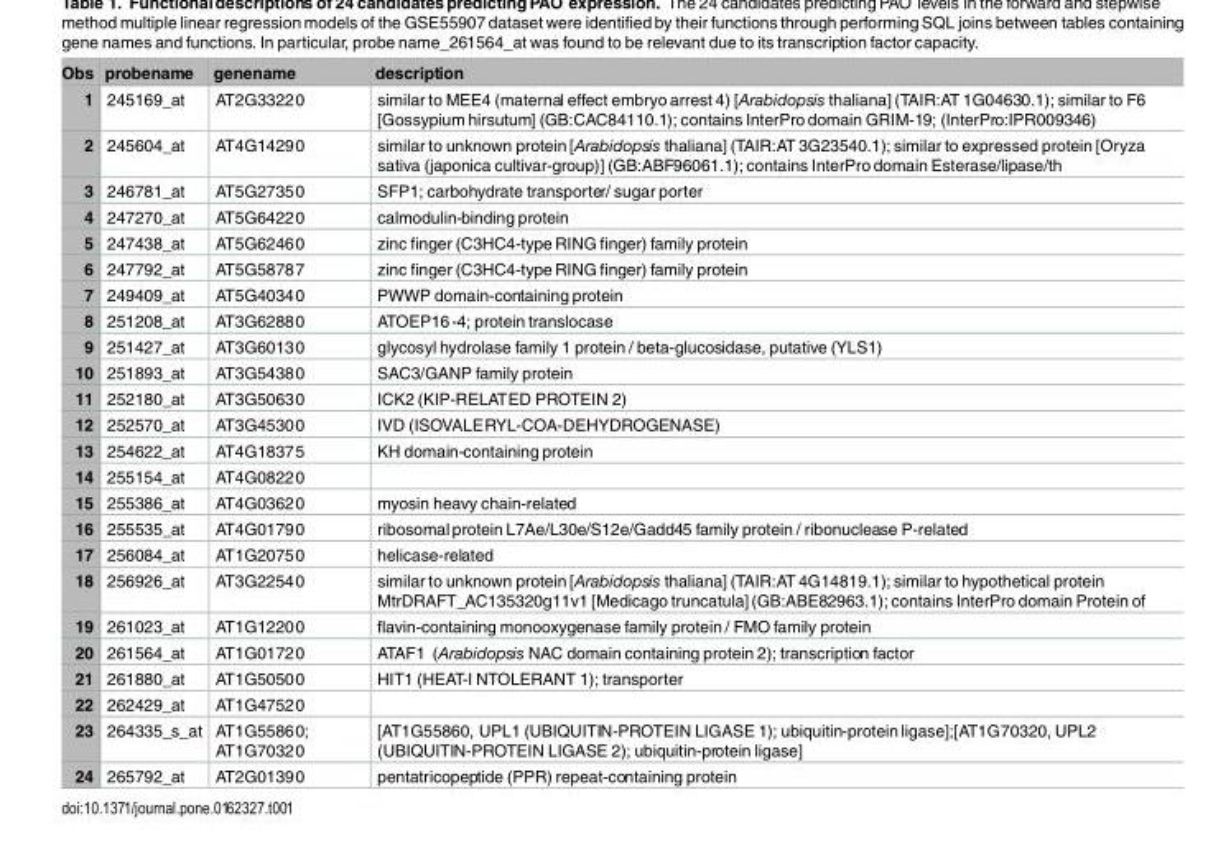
<table><thead><tr><td>Obs</td><td>probename</td><td>genename</td><td>description</td></tr></thead><tbody><tr><td>1</td><td>245169_at</td><td>AT2G33220</td><td>similar to MEE4 (maternal effect embryo arrest 4) [Arabidopsis thaliana] (TAIR:AT 1G04630.1); similar to F6 [Gossypium hirsutum] (GB:CAC84110.1); contains InterPro domain GRIM-19; (InterPro:IPR009346)</td></tr><tr><td>2</td><td>245604_at</td><td>AT4G14290</td><td>similar to unknown protein [Arabidopsis thaliana] (TAIR:AT 3G23540.1); similar to expressed protein [Oryza sativa (japonica cultivar-group)] (GB:ABF96061.1); contains InterPro domain Esterase/lipase/th</td></tr><tr><td>3</td><td>246781_at</td><td>AT5G27350</td><td>SFP1; carbohydrate transporter/ sugar porter</td></tr><tr><td>4</td><td>247270_at</td><td>AT5G64220</td><td>calmodulin-binding protein</td></tr><tr><td>5</td><td>247438_at</td><td>AT5G62460</td><td>zinc finger (C3HC4-type RING finger) family protein</td></tr><tr><td>6</td><td>247792_at</td><td>AT5G58787</td><td>zinc finger (C3HC4-type RING finger) family protein</td></tr><tr><td>7</td><td>249409_at</td><td>AT5G40340</td><td>PWWP domain-containing protein</td></tr><tr><td>8</td><td>251208_at</td><td>AT3G62880</td><td>ATOEP16-4; protein translocase</td></tr><tr><td>9</td><td>251427_at</td><td>AT3G60130</td><td>glycosyl hydrolase family 1 protein / beta-glucosidase, putative (YLS1)</td></tr><tr><td>10</td><td>251893_at</td><td>AT3G54380</td><td>SAC3/GANP family protein</td></tr><tr><td>11</td><td>252180_at</td><td>AT3G50630</td><td>ICK2 (KIP-RELATED PROTEIN 2)</td></tr><tr><td>12</td><td>252570_at</td><td>AT3G45300</td><td>IVD (ISOVALERYL-COA-DEHYDROGENASE)</td></tr><tr><td>13</td><td>254622_at</td><td>AT4G18375</td><td>KH domain-containing protein</td></tr><tr><td>14</td><td>255154_at</td><td>AT4G08220</td><td></td></tr><tr><td>15</td><td>255386_at</td><td>AT4G03620</td><td>myosin heavy chain-related</td></tr><tr><td>16</td><td>255535_at</td><td>AT4G01790</td><td>ribosomal protein L7Ae/L30e/S12e/Gadd45 family protein / ribonuclease P-related</td></tr><tr><td>17</td><td>256084_at</td><td>AT1G20750</td><td>helicase-related</td></tr><tr><td>18</td><td>256926_at</td><td>AT3G22540</td><td>similar to unknown protein [Arabidopsis thaliana] (TAIR:AT 4G14819.1); similar to hypothetical protein MtrDRAFT_AC135320g11v1 [Medicago truncatula](GB:ABE82963.1); contains InterPro domain Protein of</td></tr><tr><td>19</td><td>261023_at</td><td>AT1G12200</td><td>flavin-containing monooxygenase family protein / FMO family protein</td></tr><tr><td>20</td><td>261564_at</td><td>AT1G01720</td><td>ATAF1 (Arabidopsis NAC domain containing protein 2); transcription factor</td></tr><tr><td>21</td><td>261880_at</td><td>AT1G50500</td><td>HIT1 (HEAT-I NTOLERANT 1); transporter</td></tr><tr><td>22</td><td>262429_at</td><td>AT1G47520</td><td></td></tr><tr><td>23</td><td>264335_s_at</td><td>AT1G55860; AT1G70320</td><td>[AT1G55860, UPL1 (UBIQUITIN-PROTEIN LIGASE 1); ubiquitin-protein ligase];[AT1G70320, UPL2 (UBIQUITIN-PROTEIN LIGASE 2); ubiquitin-protein ligase]</td></tr><tr><td>24</td><td>265792_at</td><td>AT2G01390</td><td>pentatricopeptide (PPR) repeat-containing protein</td></tr></tbody></table>